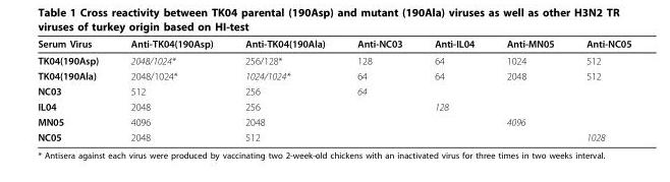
<table><thead><tr><td>Serum Virus</td><td>Anti-TK04(190Asp)</td><td>Anti-TK04(190Ala)</td><td>Anti-NC03</td><td>Anti-IL04</td><td>Anti-MN05</td><td>Anti-NC05</td></tr></thead><tbody><tr><td>TK04(190Asp)</td><td>2048/1024*</td><td>256/128*</td><td>128</td><td>64</td><td>1024</td><td>512</td></tr><tr><td>TK04(190Ala)</td><td>2048/1024*</td><td>1024/1024*</td><td>64</td><td>64</td><td>2048</td><td>512</td></tr><tr><td>NC03</td><td>512</td><td>256</td><td>64</td><td></td><td></td><td></td></tr><tr><td>IL04</td><td>2048</td><td>256</td><td></td><td>128</td><td></td><td></td></tr><tr><td>MN05</td><td>4096</td><td>2048</td><td></td><td></td><td>4096</td><td></td></tr><tr><td>NC05</td><td>2048</td><td>512</td><td></td><td></td><td></td><td>1028</td></tr></tbody></table>